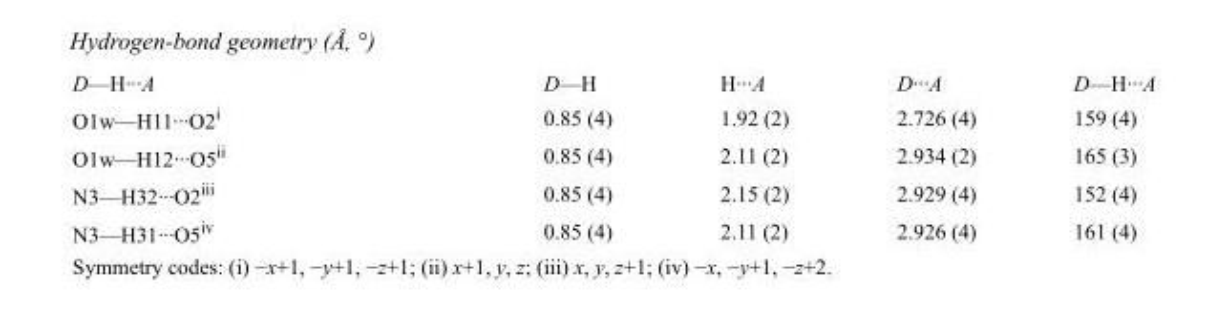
<table><tbody><tr><td>D—H···A</td><td>D—H</td><td>H···A</td><td>D···A</td><td>D—H···A</td></tr><tr><td>O1w—H11···O2<sup>i</sup></td><td>0.85 (4)</td><td>1.92 (2)</td><td>2.726 (4)</td><td>159 (4)</td></tr><tr><td>O1w—H12···O5<sup>ii</sup></td><td>0.85 (4)</td><td>2.11 (2)</td><td>2.934 (2)</td><td>165 (3)</td></tr><tr><td>N3—H32···O2<sup>iii</sup></td><td>0.85 (4)</td><td>2.15 (2)</td><td>2.929 (4)</td><td>152 (4)</td></tr><tr><td>N3—H31···O5<sup>iv</sup></td><td>0.85 (4)</td><td>2.11 (2)</td><td>2.926 (4)</td><td>161 (4)</td></tr></tbody></table>